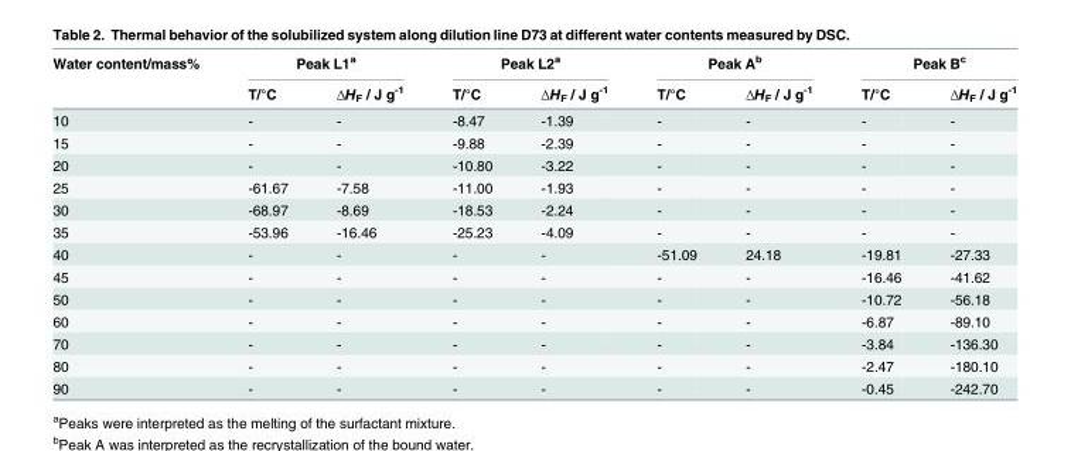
<table><thead><tr><td rowspan="2">Water content/mass%</td><td colspan="2">Peak L1<sup>a</sup></td><td colspan="2">Peak L2<sup>a</sup></td><td colspan="2">Peak A<sup>b</sup></td><td colspan="2">Peak B<sup>c</sup></td></tr><tr><td>T/°C</td><td>ΔHF / J g-1</td><td>T/°C</td><td>ΔHF / J g-1</td><td>T/°C</td><td>ΔHF / J g-1</td><td>T/°C</td><td>ΔHF / J g-1</td></tr></thead><tbody><tr><td>10</td><td>-</td><td>-</td><td>-8.47</td><td>-1.39</td><td>-</td><td>-</td><td>-</td><td>-</td></tr><tr><td>15</td><td>-</td><td>-</td><td>-9.88</td><td>-2.39</td><td>-</td><td>-</td><td>-</td><td>-</td></tr><tr><td>20</td><td>-</td><td>-</td><td>-10.80</td><td>-3.22</td><td>-</td><td>-</td><td>-</td><td>-</td></tr><tr><td>25</td><td>-61.67</td><td>-7.58</td><td>-11.00</td><td>-1.93</td><td>-</td><td>-</td><td>-</td><td>-</td></tr><tr><td>30</td><td>-68.97</td><td>-8.69</td><td>-18.53</td><td>-2.24</td><td>-</td><td>-</td><td>-</td><td>-</td></tr><tr><td>35</td><td>-53.96</td><td>-16.46</td><td>-25.23</td><td>-4.09</td><td>-</td><td>-</td><td>-</td><td>-</td></tr><tr><td>40</td><td>-</td><td>-</td><td>-</td><td>-</td><td>-51.09</td><td>24.18</td><td>-19.81</td><td>-27.33</td></tr><tr><td>45</td><td>-</td><td>-</td><td>-</td><td>-</td><td>-</td><td>-</td><td>-16.46</td><td>-41.62</td></tr><tr><td>50</td><td>-</td><td>-</td><td>-</td><td>-</td><td>-</td><td>-</td><td>-10.72</td><td>-56.18</td></tr><tr><td>60</td><td>-</td><td>-</td><td>-</td><td>-</td><td>-</td><td>-</td><td>-6.87</td><td>-89.10</td></tr><tr><td>70</td><td>-</td><td>-</td><td>-</td><td>-</td><td>-</td><td>-</td><td>-3.84</td><td>-136.30</td></tr><tr><td>80</td><td>-</td><td>-</td><td>-</td><td>-</td><td>-</td><td>-</td><td>-2.47</td><td>-180.10</td></tr><tr><td>90</td><td>-</td><td>-</td><td>-</td><td>-</td><td>-</td><td>-</td><td>-0.45</td><td>-242.70</td></tr></tbody></table>